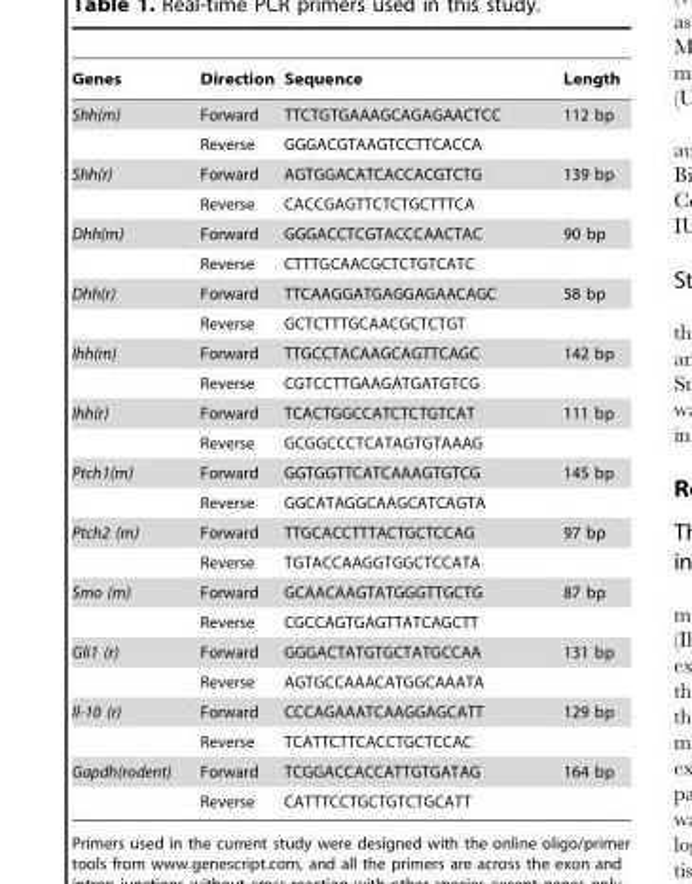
<table><thead><tr><td>Genes</td><td>Direction</td><td>Sequence</td><td>Length</td></tr></thead><tbody><tr><td rowspan="2">Shh(m)</td><td>Forward</td><td>TTCTGTGAAAGCAGAGAACTCC</td><td>112 bp</td></tr><tr><td>Reverse</td><td>GGGACGTAAGTCCTTCACCA</td><td></td></tr><tr><td rowspan="2">Shh(r)</td><td>Forward</td><td>AGTGGACATCACCACGTCTG</td><td>139 bp</td></tr><tr><td>Reverse</td><td>CACCGAGTTCTCTGCTTTCA</td><td></td></tr><tr><td rowspan="2">Dhh(m)</td><td>Forward</td><td>GGGACCTCGTACCCAACTAC</td><td>90 bp</td></tr><tr><td>Reverse</td><td>CTTTGCAACGCTCTGTCATC</td><td></td></tr><tr><td rowspan="2">Dhh(r)</td><td>Forward</td><td>TTCAAGGATGAGGAGAACAGC</td><td>58 bp</td></tr><tr><td>Reverse</td><td>GCTCTTTGCAACGCTCTGT</td><td></td></tr><tr><td rowspan="2">Ihh(m)</td><td>Forward</td><td>TTGCCTACAAGCAGTTCAGC</td><td>142 bp</td></tr><tr><td>Reverse</td><td>CGTCCTTGAAGATGATGTCG</td><td></td></tr><tr><td rowspan="2">Ihh(r)</td><td>Forward</td><td>TCACTGGCCATCTCTGTCAT</td><td>111 bp</td></tr><tr><td>Reverse</td><td>GCGGCCCTCATAGTGTAAAG</td><td></td></tr><tr><td rowspan="2">Ptch1(m)</td><td>Forward</td><td>GGTGGTTCATCAAAGTGTCG</td><td>145 bp</td></tr><tr><td>Reverse</td><td>GGCATAGGCAAGCATCAGTA</td><td></td></tr><tr><td rowspan="2">Ptch2 (m)</td><td>Forward</td><td>TTGCACCTTTACTGCTCCAG</td><td>97 bp</td></tr><tr><td>Reverse</td><td>TGTACCAAGGTGGCTCCATA</td><td></td></tr><tr><td rowspan="2">Smo (m)</td><td>Forward</td><td>GCAACAAGTATGGGTTGCTG</td><td>87 bp</td></tr><tr><td>Reverse</td><td>CGCCAGTGAGTTATCAGCTT</td><td></td></tr><tr><td rowspan="2">Gli1 (r)</td><td>Forward</td><td>GGGACTATGTGCTATGCCAA</td><td>131 bp</td></tr><tr><td>Reverse</td><td>AGTGCCAAACATGGCAAATA</td><td></td></tr><tr><td rowspan="2">Il-10 (r)</td><td>Forward</td><td>CCCAGAAATCAAGGAGCATT</td><td>129 bp</td></tr><tr><td>Reverse</td><td>TCATTCTTCACCTGCTCCAC</td><td></td></tr><tr><td rowspan="2">Gapdh(rodent)</td><td>Forward</td><td>TCGGACCACCATTGTGATAG</td><td>164 bp</td></tr><tr><td>Reverse</td><td>CATTTCCTGCTGTCTGCATT</td><td></td></tr></tbody></table>